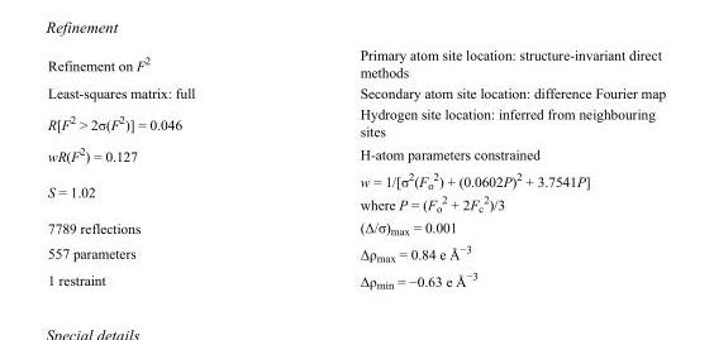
<table><tbody><tr><td>Refinement on F<sup>2</sup></td><td>Primary atom site location: structure-invariant direct methods</td></tr><tr><td>Least-squares matrix: full</td><td>Secondary atom site location: difference Fourier map</td></tr><tr><td>R[F<sup>2</sup> &gt; 2σ(F<sup>2</sup>)] = 0.046</td><td>Hydrogen site location: inferred from neighbouring sites</td></tr><tr><td>wR(F<sup>2</sup>) = 0.127</td><td>H-atom parameters constrained</td></tr><tr><td>S = 1.02</td><td>w = 1/[σ<sup>2</sup>(F<sub>o</sub> <sup>2</sup>) + (0.0602P)<sup>2</sup> + 3.7541P] where P = (F<sub>o</sub> <sup>2</sup> + 2F<sub>c</sub> <sup>2</sup>)/3</td></tr><tr><td>7789 reflections</td><td>(Δ/σ)<sub>max</sub> = 0.001</td></tr><tr><td>557 parameters</td><td>Δρ<sub>max</sub> = 0.84 e Å<sup>−3</sup></td></tr><tr><td>1 restraint</td><td>Δρ<sub>min</sub> = −0.63 e Å<sup>−3</sup></td></tr></tbody></table>